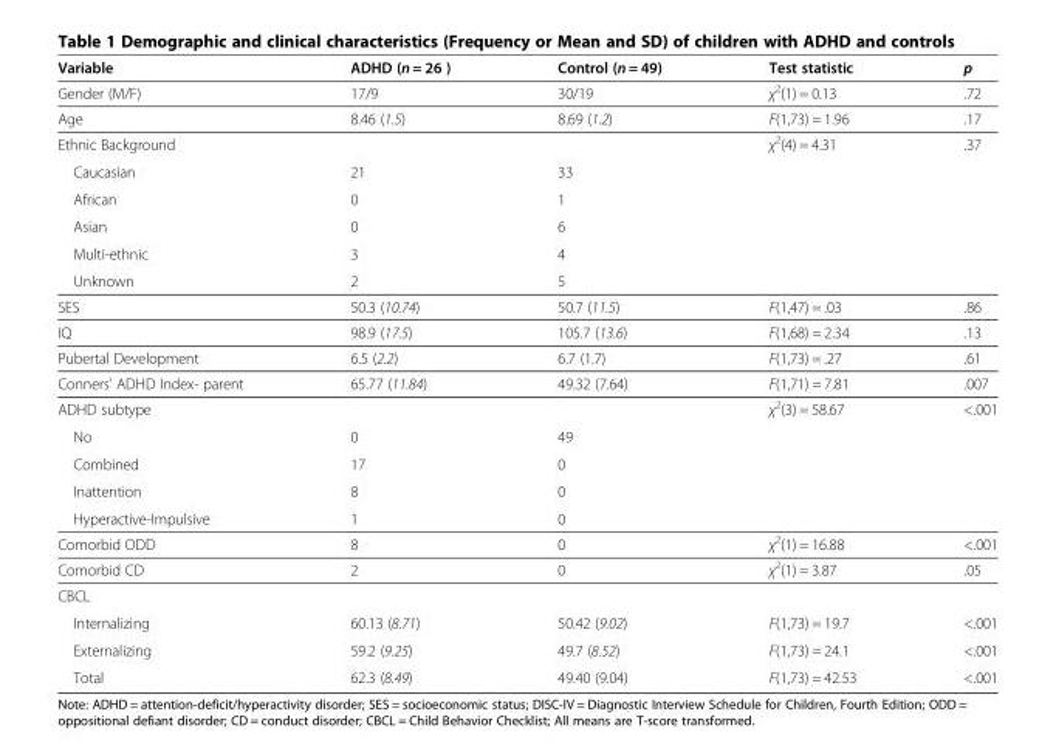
<table><thead><tr><td>Variable</td><td>ADHD (n = 26 )</td><td>Control (n = 49)</td><td>Test statistic</td><td>p</td></tr></thead><tbody><tr><td>Gender (M/F)</td><td>17/9</td><td>30/19</td><td>χ<sup>2</sup>(1) = 0.13</td><td>.72</td></tr><tr><td>Age</td><td>8.46 (1.5)</td><td>8.69 (1.2)</td><td>F(1,73) = 1.96</td><td>.17</td></tr><tr><td>Ethnic Background</td><td></td><td></td><td>χ<sup>2</sup>(4) = 4.31</td><td>.37</td></tr><tr><td>Caucasian</td><td>21</td><td>33</td><td></td><td></td></tr><tr><td>African</td><td>0</td><td>1</td><td></td><td></td></tr><tr><td>Asian</td><td>0</td><td>6</td><td></td><td></td></tr><tr><td>Multi-ethnic</td><td>3</td><td>4</td><td></td><td></td></tr><tr><td>Unknown</td><td>2</td><td>5</td><td></td><td></td></tr><tr><td>SES</td><td>50.3 (10.74)</td><td>50.7 (11.5)</td><td>F(1,47) = .03</td><td>.86</td></tr><tr><td>IQ</td><td>98.9 (17.5)</td><td>105.7 (13.6)</td><td>F(1,68) = 2.34</td><td>.13</td></tr><tr><td>Pubertal Development</td><td>6.5 (2.2)</td><td>6.7 (1.7)</td><td>F(1,73) = .27</td><td>.61</td></tr><tr><td>Conners’ ADHD Index- parent</td><td>65.77 (11.84)</td><td>49.32 (7.64)</td><td>F(1,71) = 7.81</td><td>.007</td></tr><tr><td>ADHD subtype</td><td></td><td></td><td>χ<sup>2</sup>(3) = 58.67</td><td>&lt;.001</td></tr><tr><td>No</td><td>0</td><td>49</td><td></td><td></td></tr><tr><td>Combined</td><td>17</td><td>0</td><td></td><td></td></tr><tr><td>Inattention</td><td>8</td><td>0</td><td></td><td></td></tr><tr><td>Hyperactive-Impulsive</td><td>1</td><td>0</td><td></td><td></td></tr><tr><td>Comorbid ODD</td><td>8</td><td>0</td><td>χ<sup>2</sup>(1) = 16.88</td><td>&lt;.001</td></tr><tr><td>Comorbid CD</td><td>2</td><td>0</td><td>χ<sup>2</sup>(1) = 3.87</td><td>.05</td></tr><tr><td colspan="5">CBCL</td></tr><tr><td>Internalizing</td><td>60.13 (8.71)</td><td>50.42 (9.02)</td><td>F(1,73) = 19.7</td><td>&lt;.001</td></tr><tr><td>Externalizing</td><td>59.2 (9.25)</td><td>49.7 (8.52)</td><td>F(1,73) = 24.1</td><td>&lt;.001</td></tr><tr><td>Total</td><td>62.3 (8.49)</td><td>49.40 (9.04)</td><td>F(1,73) = 42.53</td><td>&lt;.001</td></tr></tbody></table>